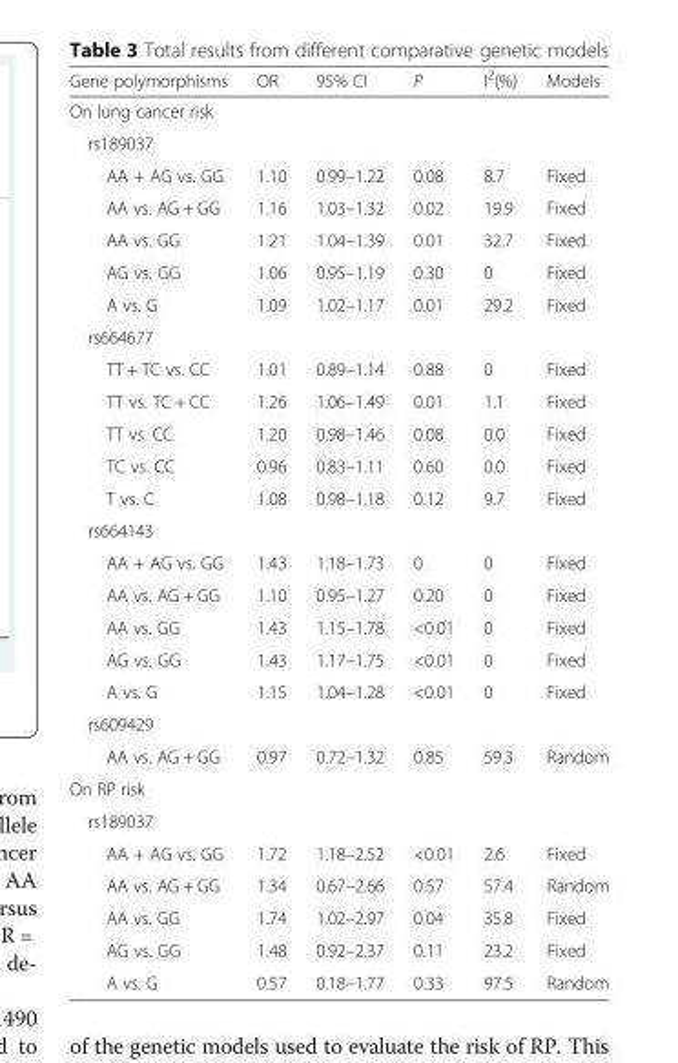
<table><thead><tr><td>Gene polymorphisms</td><td>OR</td><td>95% CI</td><td>P</td><td>I<sup>2</sup>(%)</td><td>Models</td></tr></thead><tbody><tr><td colspan="6">On lung cancer risk</td></tr><tr><td colspan="6">rs189037</td></tr><tr><td>AA + AG vs. GG</td><td>1.10</td><td>0.99–1.22</td><td>0.08</td><td>8.7</td><td>Fixed</td></tr><tr><td>AA vs. AG + GG</td><td>1.16</td><td>1.03–1.32</td><td>0.02</td><td>19.9</td><td>Fixed</td></tr><tr><td>AA vs. GG</td><td>1.21</td><td>1.04–1.39</td><td>0.01</td><td>32.7</td><td>Fixed</td></tr><tr><td>AG vs. GG</td><td>1.06</td><td>0.95–1.19</td><td>0.30</td><td>0</td><td>Fixed</td></tr><tr><td>A vs. G</td><td>1.09</td><td>1.02–1.17</td><td>0.01</td><td>29.2</td><td>Fixed</td></tr><tr><td colspan="6">rs664677</td></tr><tr><td>TT + TC vs. CC</td><td>1.01</td><td>0.89–1.14</td><td>0.88</td><td>0</td><td>Fixed</td></tr><tr><td>TT vs. TC + CC</td><td>1.26</td><td>1.06–1.49</td><td>0.01</td><td>1.1</td><td>Fixed</td></tr><tr><td>TT vs. CC</td><td>1.20</td><td>0.98–1.46</td><td>0.08</td><td>0.0</td><td>Fixed</td></tr><tr><td>TC vs. CC</td><td>0.96</td><td>0.83–1.11</td><td>0.60</td><td>0.0</td><td>Fixed</td></tr><tr><td>T vs. C</td><td>1.08</td><td>0.98–1.18</td><td>0.12</td><td>9.7</td><td>Fixed</td></tr><tr><td colspan="6">rs664143</td></tr><tr><td>AA + AG vs. GG</td><td>1.43</td><td>1.18–1.73</td><td>0</td><td>0</td><td>Fixed</td></tr><tr><td>AA vs. AG + GG</td><td>1.10</td><td>0.95–1.27</td><td>0.20</td><td>0</td><td>Fixed</td></tr><tr><td>AA vs. GG</td><td>1.43</td><td>1.15–1.78</td><td>&lt;0.01</td><td>0</td><td>Fixed</td></tr><tr><td>AG vs. GG</td><td>1.43</td><td>1.17–1.75</td><td>&lt;0.01</td><td>0</td><td>Fixed</td></tr><tr><td>A vs. G</td><td>1.15</td><td>1.04–1.28</td><td>&lt;0.01</td><td>0</td><td>Fixed</td></tr><tr><td colspan="6">rs609429</td></tr><tr><td>AA vs. AG + GG</td><td>0.97</td><td>0.72–1.32</td><td>0.85</td><td>59.3</td><td>Random</td></tr><tr><td colspan="6">On RP risk</td></tr><tr><td colspan="6">rs189037</td></tr><tr><td>AA + AG vs. GG</td><td>1.72</td><td>1.18–2.52</td><td>&lt;0.01</td><td>2.6</td><td>Fixed</td></tr><tr><td>AA vs. AG + GG</td><td>1.34</td><td>0.67–2.66</td><td>0.57</td><td>57.4</td><td>Random</td></tr><tr><td>AA vs. GG</td><td>1.74</td><td>1.02–2.97</td><td>0.04</td><td>35.8</td><td>Fixed</td></tr><tr><td>AG vs. GG</td><td>1.48</td><td>0.92–2.37</td><td>0.11</td><td>23.2</td><td>Fixed</td></tr><tr><td>A vs. G</td><td>0.57</td><td>0.18–1.77</td><td>0.33</td><td>97.5</td><td>Random</td></tr></tbody></table>